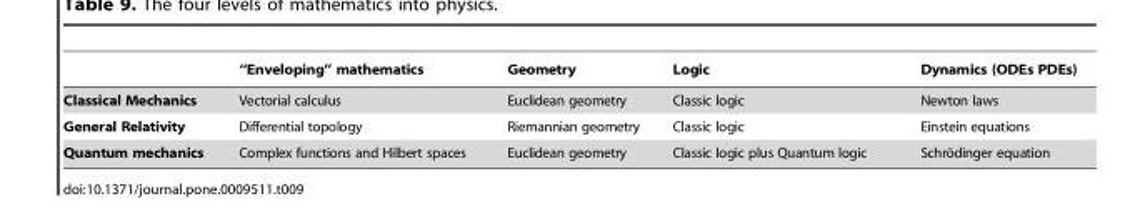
<table><thead><tr><td></td><td>‘‘Enveloping’’ mathematics</td><td>Geometry</td><td>Logic</td><td>Dynamics (ODEs PDEs)</td></tr></thead><tbody><tr><td>Classical Mechanics</td><td>Vectorial calculus</td><td>Euclidean geometry</td><td>Classic logic</td><td>Newton laws</td></tr><tr><td>General Relativity</td><td>Differential topology</td><td>Riemannian geometry</td><td>Classic logic</td><td>Einstein equations</td></tr><tr><td>Quantum mechanics</td><td>Complex functions and Hilbert spaces</td><td>Euclidean geometry</td><td>Classic logic plus Quantum logic</td><td>Schro¨dinger equation</td></tr></tbody></table>